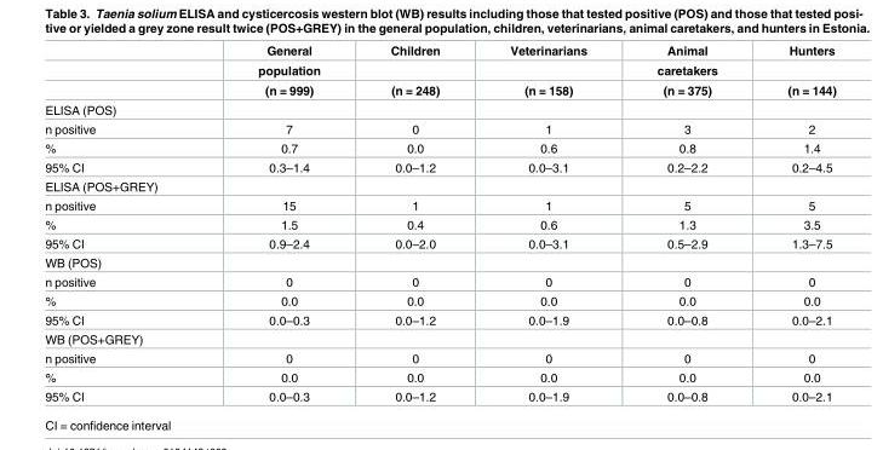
<table><thead><tr><td rowspan="3"></td><td rowspan="3">General population (n = 999)</td><td rowspan="3">Children (n = 248)</td><td rowspan="3">Veterinarians (n = 158)</td><td rowspan="3">Animal caretakers (n = 375)</td><td rowspan="3">Hunters (n = 144)</td></tr><tr></tr><tr></tr></thead><tbody><tr><td colspan="6">ELISA (POS)</td></tr><tr><td>n positive</td><td>7</td><td>0</td><td>1</td><td>3</td><td>2</td></tr><tr><td>%</td><td>0.7</td><td>0.0</td><td>0.6</td><td>0.8</td><td>1.4</td></tr><tr><td>95% CI</td><td>0.3–1.4</td><td>0.0–1.2</td><td>0.0–3.1</td><td>0.2–2.2</td><td>0.2–4.5</td></tr><tr><td colspan="6">ELISA (POS+GREY)</td></tr><tr><td>n positive</td><td>15</td><td>1</td><td>1</td><td>5</td><td>5</td></tr><tr><td>%</td><td>1.5</td><td>0.4</td><td>0.6</td><td>1.3</td><td>3.5</td></tr><tr><td>95% CI</td><td>0.9–2.4</td><td>0.0–2.0</td><td>0.0–3.1</td><td>0.5–2.9</td><td>1.3–7.5</td></tr><tr><td colspan="6">WB (POS)</td></tr><tr><td>n positive</td><td>0</td><td>0</td><td>0</td><td>0</td><td>0</td></tr><tr><td>%</td><td>0.0</td><td>0.0</td><td>0.0</td><td>0.0</td><td>0.0</td></tr><tr><td>95% CI</td><td>0.0–0.3</td><td>0.0–1.2</td><td>0.0–1.9</td><td>0.0–0.8</td><td>0.0–2.1</td></tr><tr><td colspan="6">WB (POS+GREY)</td></tr><tr><td>n positive</td><td>0</td><td>0</td><td>0</td><td>0</td><td>0</td></tr><tr><td>%</td><td>0.0</td><td>0.0</td><td>0.0</td><td>0.0</td><td>0.0</td></tr><tr><td>95% CI</td><td>0.0–0.3</td><td>0.0–1.2</td><td>0.0–1.9</td><td>0.0–0.8</td><td>0.0–2.1</td></tr></tbody></table>